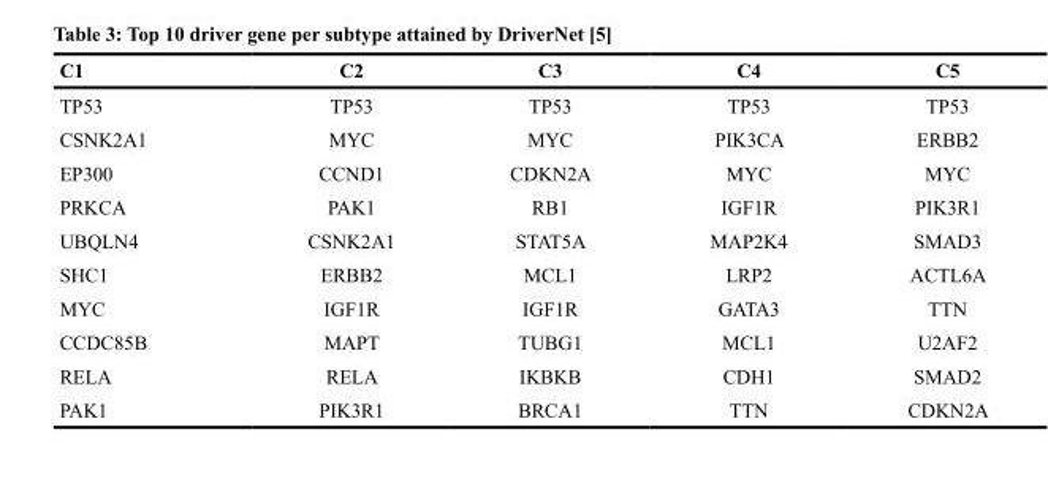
<table><thead><tr><td>C1</td><td>C2</td><td>C3</td><td>C4</td><td>C5</td></tr></thead><tbody><tr><td>TP53</td><td>TP53</td><td>TP53</td><td>TP53</td><td>TP53</td></tr><tr><td>CSNK2A1</td><td>MYC</td><td>MYC</td><td>PIK3CA</td><td>ERBB2</td></tr><tr><td>EP300</td><td>CCND1</td><td>CDKN2A</td><td>MYC</td><td>MYC</td></tr><tr><td>PRKCA</td><td>PAK1</td><td>RB1</td><td>IGF1R</td><td>PIK3R1</td></tr><tr><td>UBQLN4</td><td>CSNK2A1</td><td>STAT5A</td><td>MAP2K4</td><td>SMAD3</td></tr><tr><td>SHC1</td><td>ERBB2</td><td>MCL1</td><td>LRP2</td><td>ACTL6A</td></tr><tr><td>MYC</td><td>IGF1R</td><td>IGF1R</td><td>GATA3</td><td>TTN</td></tr><tr><td>CCDC85B</td><td>MAPT</td><td>TUBG1</td><td>MCL1</td><td>U2AF2</td></tr><tr><td>RELA</td><td>RELA</td><td>IKBKB</td><td>CDH1</td><td>SMAD2</td></tr><tr><td>PAK1</td><td>PIK3R1</td><td>BRCA1</td><td>TTN</td><td>CDKN2A</td></tr></tbody></table>